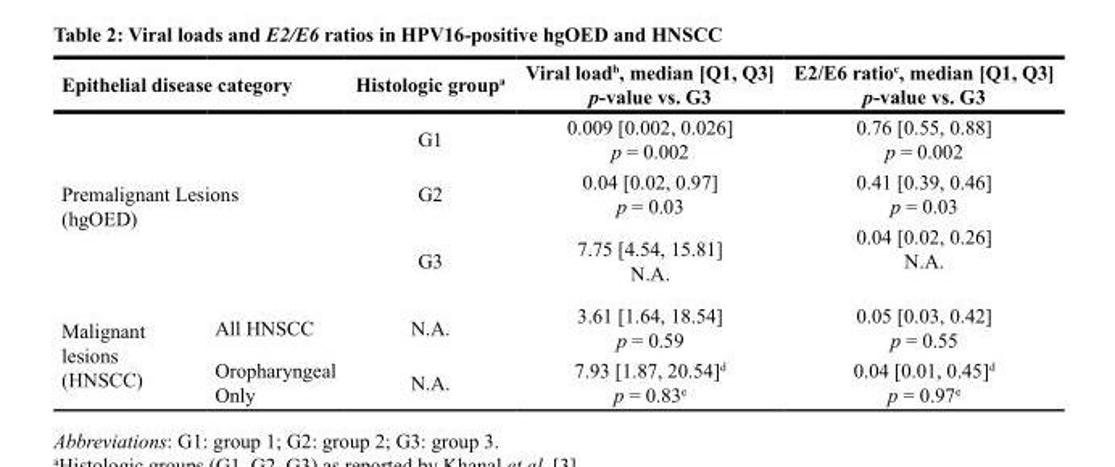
<table><thead><tr><td colspan="2">Epithelial disease category</td><td>Histologic group<sup>a</sup></td><td>Viral load<sup>b</sup>, median [Q1, Q3] p-value vs. G3</td><td>E2/E6 ratio<sup>c</sup>, median [Q1, Q3] p-value vs. G3</td></tr></thead><tbody><tr><td rowspan="3" colspan="2">Premalignant Lesions (hgOED)</td><td>G1</td><td>0.009 [0.002, 0.026] p = 0.002</td><td>0.76 [0.55, 0.88] p = 0.002</td></tr><tr><td>G2</td><td>0.04 [0.02, 0.97] p = 0.03</td><td>0.41 [0.39, 0.46] p = 0.03</td></tr><tr><td>G3</td><td>7.75 [4.54, 15.81] N.A.</td><td>0.04 [0.02, 0.26] N.A.</td></tr><tr><td rowspan="2">Malignant lesions (HNSCC)</td><td>All HNSCC</td><td>N.A.</td><td>3.61 [1.64, 18.54] p = 0.59</td><td>0.05 [0.03, 0.42] p = 0.55</td></tr><tr><td>Oropharyngeal Only</td><td>N.A.</td><td>7.93 [1.87, 20.54]<sup>d</sup> p = 0.83<sup>e</sup></td><td>0.04 [0.01, 0.45]<sup>d</sup> p = 0.97<sup>e</sup></td></tr></tbody></table>